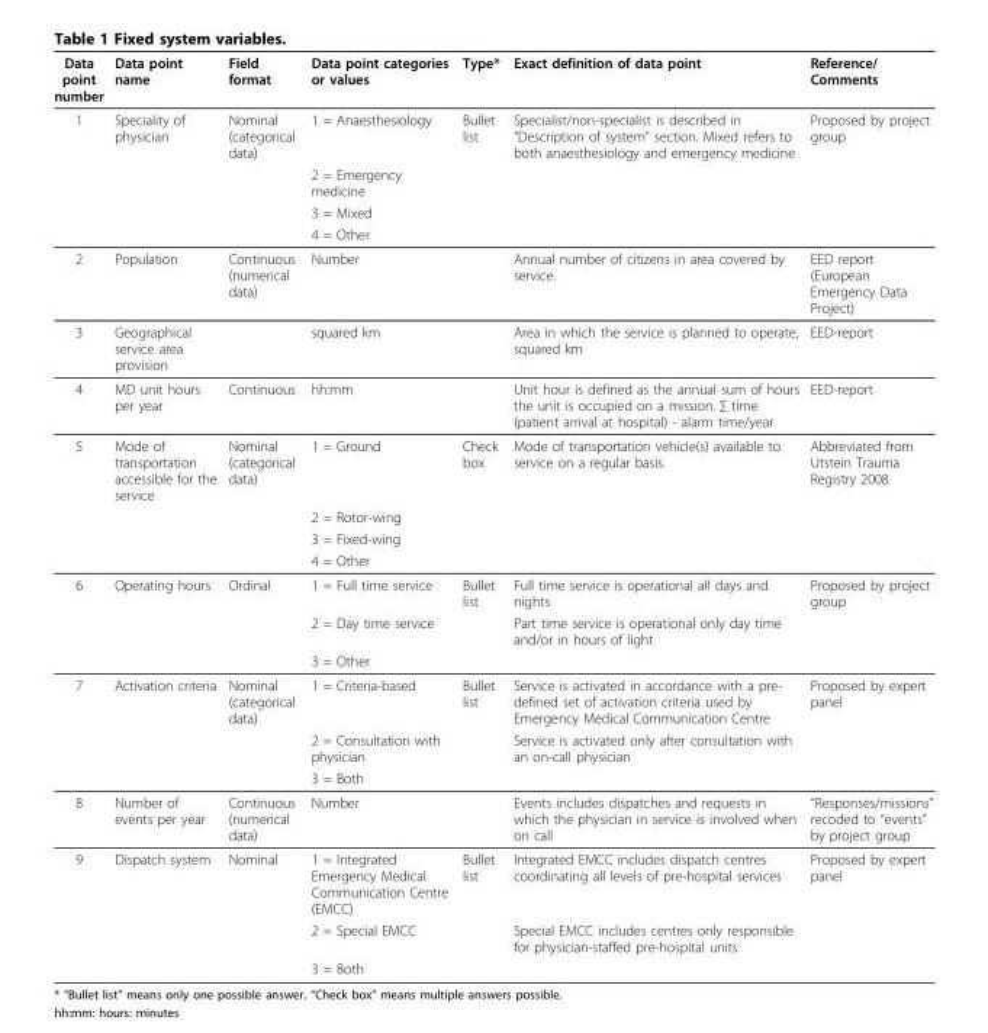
<table><thead><tr><td>Data point number</td><td>Data point name</td><td>Field format</td><td>Data point categories or values</td><td>Type*</td><td>Exact definition of data point</td><td>Reference/ Comments</td></tr></thead><tbody><tr><td rowspan="4">1</td><td>Speciality of physician</td><td>Nominal (categorical data)</td><td>1 = Anaesthesiology</td><td>Bullet list</td><td>Specialist/non-specialist is described in “Description of system” section. Mixed refers to both anaesthesiology and emergency medicine</td><td>Proposed by project group</td></tr><tr><td></td><td></td><td>2 = Emergency medicine</td><td></td><td></td><td></td></tr><tr><td></td><td></td><td>3 = Mixed</td><td></td><td></td><td></td></tr><tr><td></td><td></td><td>4 = Other</td><td></td><td></td><td></td></tr><tr><td>2</td><td>Population</td><td>Continuous (numerical data)</td><td>Number</td><td></td><td>Annual number of citizens in area covered by service.</td><td>EED report (European Emergency Data Project)</td></tr><tr><td>3</td><td>Geographical service area provision</td><td></td><td>squared km</td><td></td><td>Area in which the service is planned to operate, squared km</td><td>EED-report</td></tr><tr><td>4</td><td>MD unit hours per year</td><td>Continuous</td><td>hh:mm</td><td></td><td>Unit hour is defined as the annual sum of hours the unit is occupied on a mission. ∑ time (patient arrival at hospital) - alarm time/year</td><td>EED-report</td></tr><tr><td rowspan="4">5</td><td>Mode of transportation accessible for the service</td><td>Nominal (categorical data)</td><td>1 = Ground</td><td>Check box</td><td>Mode of transportation vehicle(s) available to service on a regular basis.</td><td>Abbreviated from Utstein Trauma Registry 2008</td></tr><tr><td></td><td></td><td>2 = Rotor-wing</td><td></td><td></td><td></td></tr><tr><td></td><td></td><td>3 = Fixed-wing</td><td></td><td></td><td></td></tr><tr><td></td><td></td><td>4 = Other</td><td></td><td></td><td></td></tr><tr><td rowspan="3">6</td><td>Operating hours</td><td>Ordinal</td><td>1 = Full time service</td><td>Bullet list</td><td>Full time service is operational all days and nights</td><td>Proposed by project group</td></tr><tr><td></td><td></td><td>2 = Day time service</td><td></td><td>Part time service is operational only day time and/or in hours of light</td><td></td></tr><tr><td></td><td></td><td>3 = Other</td><td></td><td></td><td></td></tr><tr><td rowspan="3">7</td><td>Activation criteria</td><td>Nominal (categorical data)</td><td>1 = Criteria-based</td><td>Bullet list</td><td>Service is activated in accordance with a pre- defined set of activation criteria used by Emergency Medical Communication Centre</td><td>Proposed by expert panel</td></tr><tr><td></td><td></td><td>2 = Consultation with physician</td><td></td><td>Service is activated only after consultation with an on-call physician</td><td></td></tr><tr><td></td><td></td><td>3 = Both</td><td></td><td></td><td></td></tr><tr><td>8</td><td>Number of events per year</td><td>Continuous (numerical data)</td><td>Number</td><td></td><td>Events includes dispatches and requests in which the physician in service is involved when on call</td><td>“Responses/missions” recoded to “events” by project group</td></tr><tr><td rowspan="3">9</td><td>Dispatch system</td><td>Nominal</td><td>1 = Integrated Emergency Medical Communication Centre (EMCC)</td><td>Bullet list</td><td>Integrated EMCC includes dispatch centres coordinating all levels of pre-hospital services</td><td>Proposed by expert panel</td></tr><tr><td></td><td></td><td>2 = Special EMCC</td><td></td><td>Special EMCC includes centres only responsible for physician-staffed pre-hospital units</td><td></td></tr><tr><td></td><td></td><td>3 = Both</td><td></td><td></td><td></td></tr></tbody></table>